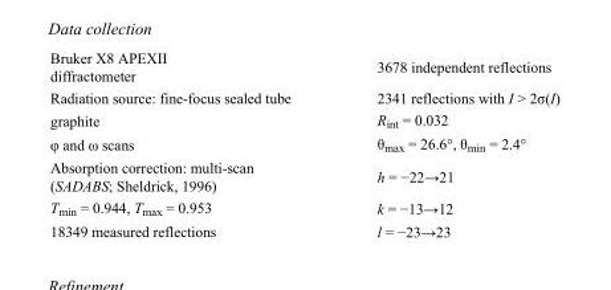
<table><tbody><tr><td>Bruker X8 APEXII diffractometer</td><td>3678 independent reflections</td></tr><tr><td>Radiation source: fine-focus sealed tube</td><td>2341 reflections with I &gt; 2σ(I)</td></tr><tr><td>graphite</td><td>R<sub>int</sub> = 0.032</td></tr><tr><td>φ and ω scans</td><td>θ<sub>max</sub> = 26.6°, θ<sub>min</sub> = 2.4°</td></tr><tr><td>Absorption correction: multi-scan (SADABS; Sheldrick, 1996)</td><td>h = −22→21</td></tr><tr><td>T<sub>min</sub> = 0.944, T<sub>max</sub> = 0.953</td><td>k = −13→12</td></tr><tr><td>18349 measured reflections</td><td>l = −23→23</td></tr></tbody></table>